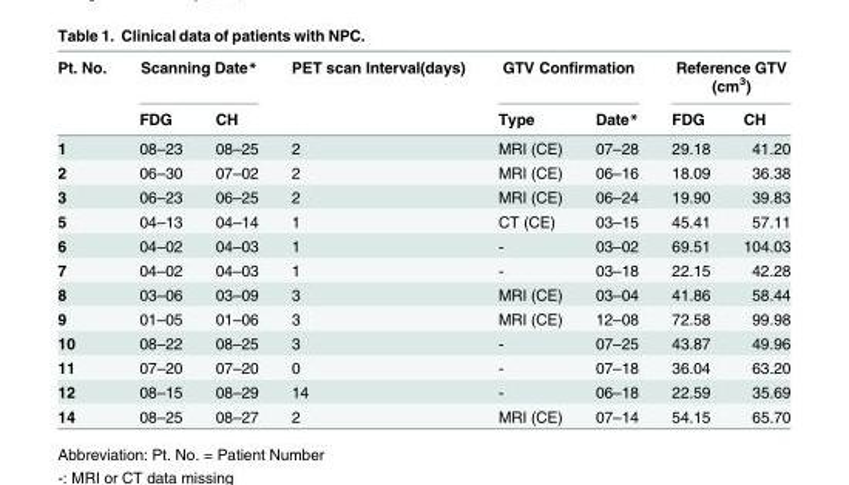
<table><thead><tr><td rowspan="2">Pt. No.</td><td colspan="2">Scanning Date*</td><td rowspan="2">PET scan Interval(days)</td><td colspan="2">GTV Confirmation</td><td colspan="2">Reference GTV (cm<sup>3</sup>)</td></tr><tr><td>FDG</td><td>CH</td><td>Type</td><td>Date*</td><td>FDG</td><td>CH</td></tr></thead><tbody><tr><td>1</td><td>08–23</td><td>08–25</td><td>2</td><td>MRI (CE)</td><td>07–28</td><td>29.18</td><td>41.20</td></tr><tr><td>2</td><td>06–30</td><td>07–02</td><td>2</td><td>MRI (CE)</td><td>06–16</td><td>18.09</td><td>36.38</td></tr><tr><td>3</td><td>06–23</td><td>06–25</td><td>2</td><td>MRI (CE)</td><td>06–24</td><td>19.90</td><td>39.83</td></tr><tr><td>5</td><td>04–13</td><td>04–14</td><td>1</td><td>CT (CE)</td><td>03–15</td><td>45.41</td><td>57.11</td></tr><tr><td>6</td><td>04–02</td><td>04–03</td><td>1</td><td>-</td><td>03–02</td><td>69.51</td><td>104.03</td></tr><tr><td>7</td><td>04–02</td><td>04–03</td><td>1</td><td>-</td><td>03–18</td><td>22.15</td><td>42.28</td></tr><tr><td>8</td><td>03–06</td><td>03–09</td><td>3</td><td>MRI (CE)</td><td>03–04</td><td>41.86</td><td>58.44</td></tr><tr><td>9</td><td>01–05</td><td>01–06</td><td>3</td><td>MRI (CE)</td><td>12–08</td><td>72.58</td><td>99.98</td></tr><tr><td>10</td><td>08–22</td><td>08–25</td><td>3</td><td>-</td><td>07–25</td><td>43.87</td><td>49.96</td></tr><tr><td>11</td><td>07–20</td><td>07–20</td><td>0</td><td>-</td><td>07–18</td><td>36.04</td><td>63.20</td></tr><tr><td>12</td><td>08–15</td><td>08–29</td><td>14</td><td>-</td><td>06–18</td><td>22.59</td><td>35.69</td></tr><tr><td>14</td><td>08–25</td><td>08–27</td><td>2</td><td>MRI (CE)</td><td>07–14</td><td>54.15</td><td>65.70</td></tr></tbody></table>